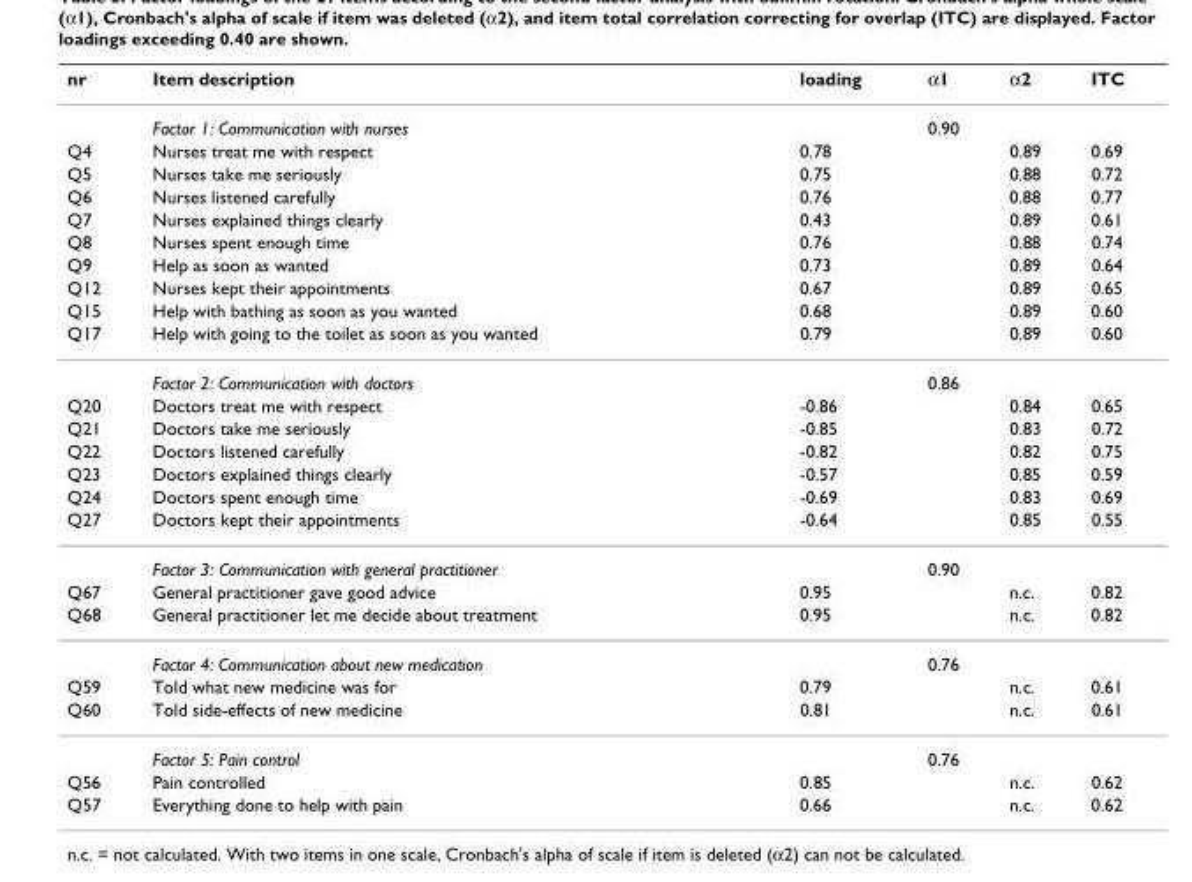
<table><thead><tr><td>nr</td><td>Item description</td><td>loading</td><td>α1</td><td>α2</td><td>ITC</td></tr></thead><tbody><tr><td></td><td>Factor 1: Communication with nurses</td><td></td><td>0.90</td><td></td><td></td></tr><tr><td>Q4</td><td>Nurses treat me with respect</td><td>0.78</td><td></td><td>0.89</td><td>0.69</td></tr><tr><td>Q5</td><td>Nurses take me seriously</td><td>0.75</td><td></td><td>0.88</td><td>0.72</td></tr><tr><td>Q6</td><td>Nurses listened carefully</td><td>0.76</td><td></td><td>0.88</td><td>0.77</td></tr><tr><td>Q7</td><td>Nurses explained things clearly</td><td>0.43</td><td></td><td>0.89</td><td>0.61</td></tr><tr><td>Q8</td><td>Nurses spent enough time</td><td>0.76</td><td></td><td>0.88</td><td>0.74</td></tr><tr><td>Q9</td><td>Help as soon as wanted</td><td>0.73</td><td></td><td>0.89</td><td>0.64</td></tr><tr><td>Q12</td><td>Nurses kept their appointments</td><td>0.67</td><td></td><td>0.89</td><td>0.65</td></tr><tr><td>Q15</td><td>Help with bathing as soon as you wanted</td><td>0.68</td><td></td><td>0.89</td><td>0.60</td></tr><tr><td rowspan="2">Q17</td><td>Help with going to the toilet as soon as you wanted</td><td>0.79</td><td></td><td>0.89</td><td>0.60</td></tr><tr><td>Factor 2: Communication with doctors</td><td></td><td>0.86</td><td></td><td></td></tr><tr><td>Q20</td><td>Doctors treat me with respect</td><td>-0.86</td><td></td><td>0.84</td><td>0.65</td></tr><tr><td>Q21</td><td>Doctors take me seriously</td><td>-0.85</td><td></td><td>0.83</td><td>0.72</td></tr><tr><td>Q22</td><td>Doctors listened carefully</td><td>-0.82</td><td></td><td>0.82</td><td>0.75</td></tr><tr><td>Q23</td><td>Doctors explained things clearly</td><td>-0.57</td><td></td><td>0.85</td><td>0.59</td></tr><tr><td>Q24</td><td>Doctors spent enough time</td><td>-0.69</td><td></td><td>0.83</td><td>0.69</td></tr><tr><td rowspan="2">Q27</td><td>Doctors kept their appointments</td><td>-0.64</td><td></td><td>0.85</td><td>0.55</td></tr><tr><td>Factor 3: Communication with general practitioner</td><td></td><td>0.90</td><td></td><td></td></tr><tr><td>Q67</td><td>General practitioner gave good advice</td><td>0.95</td><td></td><td>n.c.</td><td>0.82</td></tr><tr><td rowspan="2">Q68</td><td>General practitioner let me decide about treatment</td><td>0.95</td><td></td><td>n.c.</td><td>0.82</td></tr><tr><td>Factor 4: Communication about new medication</td><td></td><td>0.76</td><td></td><td></td></tr><tr><td>Q59</td><td>Told what new medicine was for</td><td>0.79</td><td></td><td>n.c.</td><td>0.61</td></tr><tr><td rowspan="2">Q60</td><td>Told side-effects of new medicine</td><td>0.81</td><td></td><td>n.c.</td><td>0.61</td></tr><tr><td>Factor 5: Pain control</td><td></td><td>0.76</td><td></td><td></td></tr><tr><td>Q56</td><td>Pain controlled</td><td>0.85</td><td></td><td>n.c.</td><td>0.62</td></tr><tr><td>Q57</td><td>Everything done to help with pain</td><td>0.66</td><td></td><td>n.c.</td><td>0.62</td></tr></tbody></table>